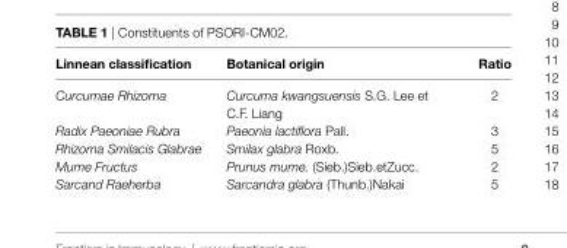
<table><thead><tr><td>linnean classification</td><td>botanical origin</td><td>ratio</td></tr></thead><tbody><tr><td>Curcumae Rhizoma</td><td>Curcuma kwangsuensis S.G. Lee et C.F. Liang</td><td>2</td></tr><tr><td>Radix Paeoniae Rubra</td><td>Paeonia lactiflora Pall.</td><td>3</td></tr><tr><td>Rhizoma Smilacis Glabrae</td><td>Smilax glabra Roxb.</td><td>5</td></tr><tr><td>Mume Fructus</td><td>Prunus mume. (Sieb.)Sieb.etZucc.</td><td>2</td></tr><tr><td>Sarcand Raeherba</td><td>Sarcandra glabra (Thunb.)Nakai</td><td>5</td></tr></tbody></table>